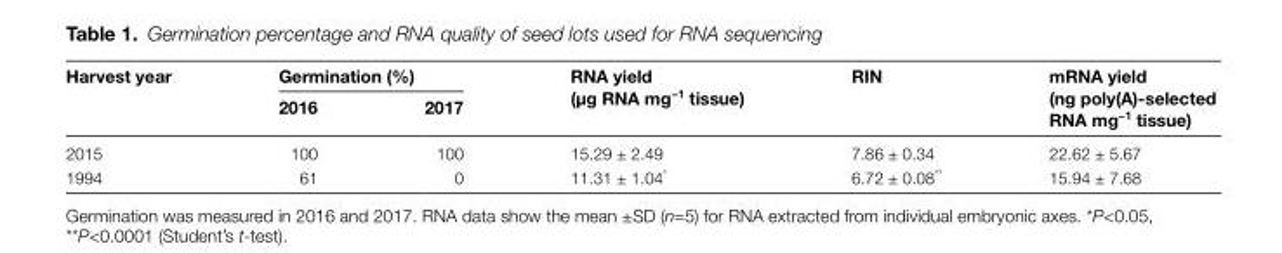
<table><thead><tr><td rowspan="2">Harvest year</td><td colspan="2">Germination (%)</td><td rowspan="2">RNA yield (µg RNA mg<sup>−1</sup> tissue)</td><td rowspan="2">RIN</td><td rowspan="2">mRNA yield (ng poly(A)-selected RNA mg<sup>−1</sup> tissue)</td></tr><tr><td>2016</td><td>2017</td></tr></thead><tbody><tr><td>2015</td><td>100</td><td>100</td><td>15.29 ± 2.49</td><td>7.86 ± 0.34</td><td>22.62 ± 5.67</td></tr><tr><td>1994</td><td>61</td><td>0</td><td>11.31 ± 1.04*</td><td>6.72 ± 0.08**</td><td>15.94 ± 7.68</td></tr></tbody></table>